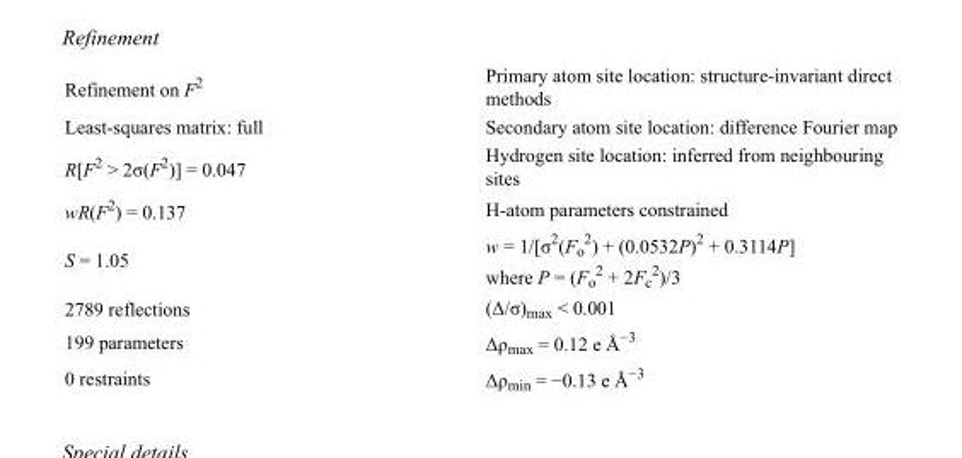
<table><tbody><tr><td>Refinement on F<sup>2</sup></td><td>Primary atom site location: structure-invariant direct methods</td></tr><tr><td>Least-squares matrix: full</td><td>Secondary atom site location: difference Fourier map</td></tr><tr><td>R[F<sup>2</sup> &gt; 2σ(F<sup>2</sup>)] = 0.047</td><td>Hydrogen site location: inferred from neighbouring sites</td></tr><tr><td>wR(F<sup>2</sup>) = 0.137</td><td>H-atom parameters constrained</td></tr><tr><td>S = 1.05</td><td>w = 1/[σ<sup>2</sup>(F<sub>o</sub> <sup>2</sup>) + (0.0532P)<sup>2</sup> + 0.3114P] where P = (F<sub>o</sub> <sup>2</sup> + 2F<sub>c</sub> <sup>2</sup>)/3</td></tr><tr><td>2789 reflections</td><td>(Δ/σ)<sub>max</sub> &lt; 0.001</td></tr><tr><td>199 parameters</td><td>Δρ<sub>max</sub> = 0.12 e Å<sup>−3</sup></td></tr><tr><td>0 restraints</td><td>Δρ<sub>min</sub> = −0.13 e Å<sup>−3</sup></td></tr></tbody></table>